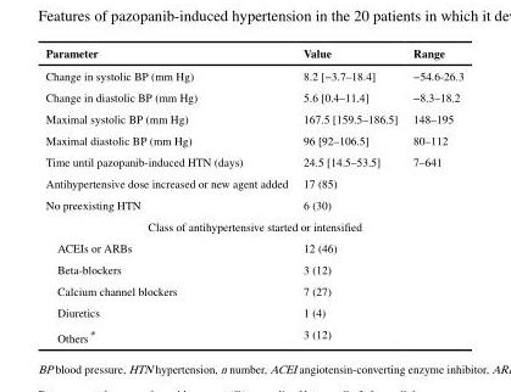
<table><thead><tr><td>Parameter</td><td>Value</td><td>Range</td></tr></thead><tbody><tr><td>Change in systolic BP (mm Hg)</td><td>8.2 [−3.7–18.4]</td><td>−54.6-26.3</td></tr><tr><td>Change in diastolic BP (mm Hg)</td><td>5.6 [0.4–11.4]</td><td>−8.3–18.2</td></tr><tr><td>Maximal systolic BP (mm Hg)</td><td>167.5 [159.5–186.5]</td><td>148–195</td></tr><tr><td>Maximal diastolic BP (mm Hg)</td><td>96 [92–106.5]</td><td>80–112</td></tr><tr><td>Time until pazopanib-induced HTN (days)</td><td>24.5 [14.5–53.5]</td><td>7–641</td></tr><tr><td>Antihypertensive dose increased or new agent added</td><td>17 (85)</td><td></td></tr><tr><td>No preexisting HTN</td><td>6 (30)</td><td></td></tr><tr><td colspan="3">Class of antihypertensive started or intensified</td></tr><tr><td>ACEIs or ARBs</td><td>12 (46)</td><td></td></tr><tr><td>Beta-blockers</td><td>3 (12)</td><td></td></tr><tr><td>Calcium channel blockers</td><td>7 (27)</td><td></td></tr><tr><td>Diuretics</td><td>1 (4)</td><td></td></tr><tr><td>Others*</td><td>3 (12)</td><td></td></tr></tbody></table>